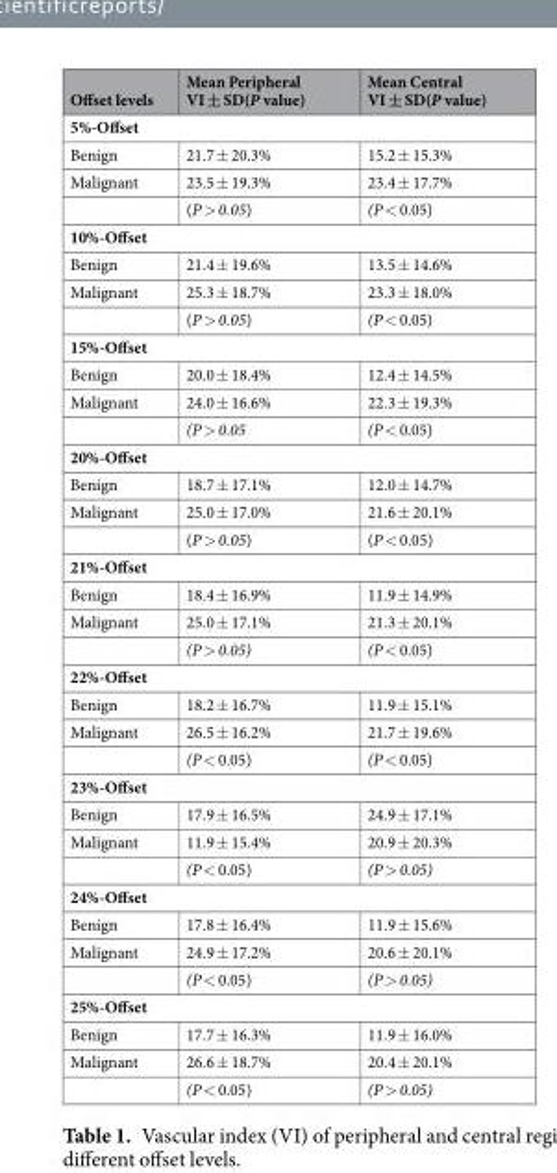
<table><thead><tr><td>Offset levels</td><td>Mean Peripheral VI ± SD(P value)</td><td>Mean Central VI ± SD(P value)</td></tr></thead><tbody><tr><td colspan="3">5%-Offset</td></tr><tr><td>Benign</td><td>21.7 ± 20.3%</td><td>15.2 ± 15.3%</td></tr><tr><td rowspan="2">Malignant</td><td>23.5 ± 19.3%</td><td>23.4 ± 17.7%</td></tr><tr><td>(P &gt; 0.05)</td><td>(P &lt; 0.05)</td></tr><tr><td colspan="3">10%-Offset</td></tr><tr><td>Benign</td><td>21.4 ± 19.6%</td><td>13.5 ± 14.6%</td></tr><tr><td rowspan="2">Malignant</td><td>25.3 ± 18.7%</td><td>23.3 ± 18.0%</td></tr><tr><td>(P &gt; 0.05)</td><td>(P &lt; 0.05)</td></tr><tr><td colspan="3">15%-Offset</td></tr><tr><td>Benign</td><td>20.0 ± 18.4%</td><td>12.4 ± 14.5%</td></tr><tr><td rowspan="2">Malignant</td><td>24.0 ± 16.6%</td><td>22.3 ± 19.3%</td></tr><tr><td>(P &gt; 0.05</td><td>(P &lt; 0.05)</td></tr><tr><td colspan="3">20%-Offset</td></tr><tr><td>Benign</td><td>18.7 ± 17.1%</td><td>12.0 ± 14.7%</td></tr><tr><td rowspan="2">Malignant</td><td>25.0 ± 17.0%</td><td>21.6 ± 20.1%</td></tr><tr><td>(P &gt; 0.05)</td><td>(P &lt; 0.05)</td></tr><tr><td colspan="3">21%-Offset</td></tr><tr><td>Benign</td><td>18.4 ± 16.9%</td><td>11.9 ± 14.9%</td></tr><tr><td rowspan="2">Malignant</td><td>25.0 ± 17.1%</td><td>21.3 ± 20.1%</td></tr><tr><td>(P &gt; 0.05)</td><td>(P &lt; 0.05)</td></tr><tr><td colspan="3">22%-Offset</td></tr><tr><td>Benign</td><td>18.2 ± 16.7%</td><td>11.9 ± 15.1%</td></tr><tr><td rowspan="2">Malignant</td><td>26.5 ± 16.2%</td><td>21.7 ± 19.6%</td></tr><tr><td>(P &lt; 0.05)</td><td>(P &lt; 0.05)</td></tr><tr><td colspan="3">23%-Offset</td></tr><tr><td>Benign</td><td>17.9 ± 16.5%</td><td>24.9 ± 17.1%</td></tr><tr><td rowspan="2">Malignant</td><td>11.9 ± 15.4%</td><td>20.9 ± 20.3%</td></tr><tr><td>(P &lt; 0.05)</td><td>(P &gt; 0.05)</td></tr><tr><td colspan="3">24%-Offset</td></tr><tr><td>Benign</td><td>17.8 ± 16.4%</td><td>11.9 ± 15.6%</td></tr><tr><td rowspan="2">Malignant</td><td>24.9 ± 17.2%</td><td>20.6 ± 20.1%</td></tr><tr><td>(P &lt; 0.05)</td><td>(P &gt; 0.05)</td></tr><tr><td colspan="3">25%-Offset</td></tr><tr><td>Benign</td><td>17.7 ± 16.3%</td><td>11.9 ± 16.0%</td></tr><tr><td rowspan="2">Malignant</td><td>26.6 ± 18.7%</td><td>20.4 ± 20.1%</td></tr><tr><td>(P &lt; 0.05)</td><td>(P &gt; 0.05)</td></tr></tbody></table>